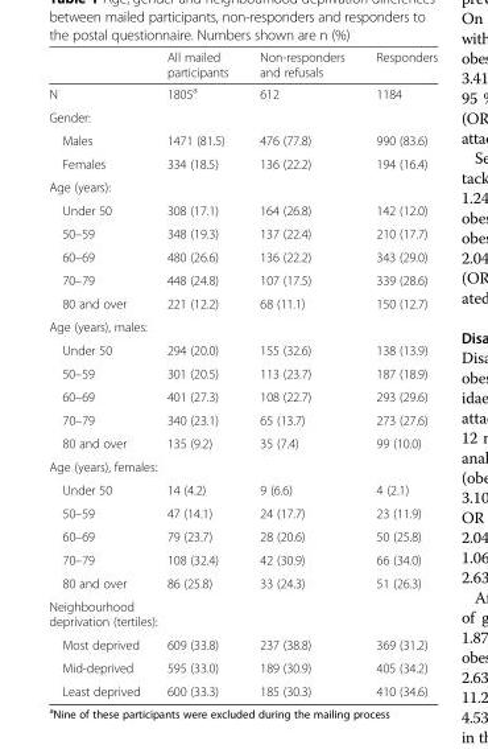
<table><thead><tr><td></td><td>All mailed participants</td><td>Non-responders and refusals</td><td>Responders</td></tr></thead><tbody><tr><td>N</td><td>1805<sup>a</sup></td><td>612</td><td>1184</td></tr><tr><td colspan="4">Gender:</td></tr><tr><td>Males</td><td>1471 (81.5)</td><td>476 (77.8)</td><td>990 (83.6)</td></tr><tr><td>Females</td><td>334 (18.5)</td><td>136 (22.2)</td><td>194 (16.4)</td></tr><tr><td colspan="4">Age (years):</td></tr><tr><td>Under 50</td><td>308 (17.1)</td><td>164 (26.8)</td><td>142 (12.0)</td></tr><tr><td>50–59</td><td>348 (19.3)</td><td>137 (22.4)</td><td>210 (17.7)</td></tr><tr><td>60–69</td><td>480 (26.6)</td><td>136 (22.2)</td><td>343 (29.0)</td></tr><tr><td>70–79</td><td>448 (24.8)</td><td>107 (17.5)</td><td>339 (28.6)</td></tr><tr><td>80 and over</td><td>221 (12.2)</td><td>68 (11.1)</td><td>150 (12.7)</td></tr><tr><td colspan="4">Age (years), males:</td></tr><tr><td>Under 50</td><td>294 (20.0)</td><td>155 (32.6)</td><td>138 (13.9)</td></tr><tr><td>50–59</td><td>301 (20.5)</td><td>113 (23.7)</td><td>187 (18.9)</td></tr><tr><td>60–69</td><td>401 (27.3)</td><td>108 (22.7)</td><td>293 (29.6)</td></tr><tr><td>70–79</td><td>340 (23.1)</td><td>65 (13.7)</td><td>273 (27.6)</td></tr><tr><td>80 and over</td><td>135 (9.2)</td><td>35 (7.4)</td><td>99 (10.0)</td></tr><tr><td colspan="4">Age (years), females:</td></tr><tr><td>Under 50</td><td>14 (4.2)</td><td>9 (6.6)</td><td>4 (2.1)</td></tr><tr><td>50–59</td><td>47 (14.1)</td><td>24 (17.7)</td><td>23 (11.9)</td></tr><tr><td>60–69</td><td>79 (23.7)</td><td>28 (20.6)</td><td>50 (25.8)</td></tr><tr><td>70–79</td><td>108 (32.4)</td><td>42 (30.9)</td><td>66 (34.0)</td></tr><tr><td>80 and over</td><td>86 (25.8)</td><td>33 (24.3)</td><td>51 (26.3)</td></tr><tr><td colspan="4">Neighbourhood deprivation (tertiles):</td></tr><tr><td>Most deprived</td><td>609 (33.8)</td><td>237 (38.8)</td><td>369 (31.2)</td></tr><tr><td>Mid-deprived</td><td>595 (33.0)</td><td>189 (30.9)</td><td>405 (34.2)</td></tr><tr><td>Least deprived</td><td>600 (33.3)</td><td>185 (30.3)</td><td>410 (34.6)</td></tr></tbody></table>